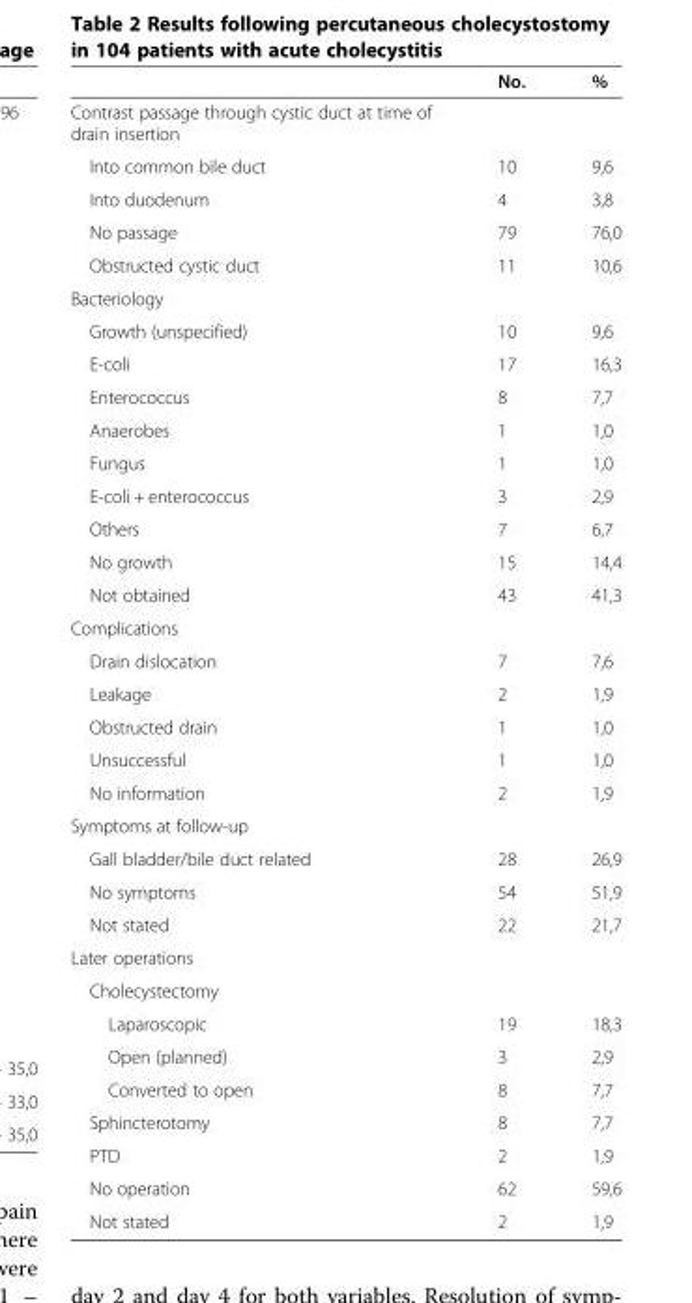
<table><thead><tr><td></td><td>No.</td><td>%</td></tr></thead><tbody><tr><td colspan="3">Contrast passage through cystic duct at time of drain insertion</td></tr><tr><td>Into common bile duct</td><td>10</td><td>9,6</td></tr><tr><td>Into duodenum</td><td>4</td><td>3,8</td></tr><tr><td>No passage</td><td>79</td><td>76,0</td></tr><tr><td>Obstructed cystic duct</td><td>11</td><td>10,6</td></tr><tr><td colspan="3">Bacteriology</td></tr><tr><td>Growth (unspecified)</td><td>10</td><td>9,6</td></tr><tr><td>E-coli</td><td>17</td><td>16,3</td></tr><tr><td>Enterococcus</td><td>8</td><td>7,7</td></tr><tr><td>Anaerobes</td><td>1</td><td>1,0</td></tr><tr><td>Fungus</td><td>1</td><td>1,0</td></tr><tr><td>E-coli + enterococcus</td><td>3</td><td>2,9</td></tr><tr><td>Others</td><td>7</td><td>6,7</td></tr><tr><td>No growth</td><td>15</td><td>14,4</td></tr><tr><td>Not obtained</td><td>43</td><td>41,3</td></tr><tr><td colspan="3">Complications</td></tr><tr><td>Drain dislocation</td><td>7</td><td>7,6</td></tr><tr><td>Leakage</td><td>2</td><td>1,9</td></tr><tr><td>Obstructed drain</td><td>1</td><td>1,0</td></tr><tr><td>Unsuccessful</td><td>1</td><td>1,0</td></tr><tr><td>No information</td><td>2</td><td>1,9</td></tr><tr><td colspan="3">Symptoms at follow-up</td></tr><tr><td>Gall bladder/bile duct related</td><td>28</td><td>26,9</td></tr><tr><td>No symptoms</td><td>54</td><td>51,9</td></tr><tr><td>Not stated</td><td>22</td><td>21,7</td></tr><tr><td colspan="3">Later operations</td></tr><tr><td colspan="3">Cholecystectomy</td></tr><tr><td>Laparoscopic</td><td>19</td><td>18,3</td></tr><tr><td>Open (planned)</td><td>3</td><td>2,9</td></tr><tr><td>Converted to open</td><td>8</td><td>7,7</td></tr><tr><td>Sphincterotomy</td><td>8</td><td>7,7</td></tr><tr><td>PTD</td><td>2</td><td>1,9</td></tr><tr><td>No operation</td><td>62</td><td>59,6</td></tr><tr><td>Not stated</td><td>2</td><td>1,9</td></tr></tbody></table>